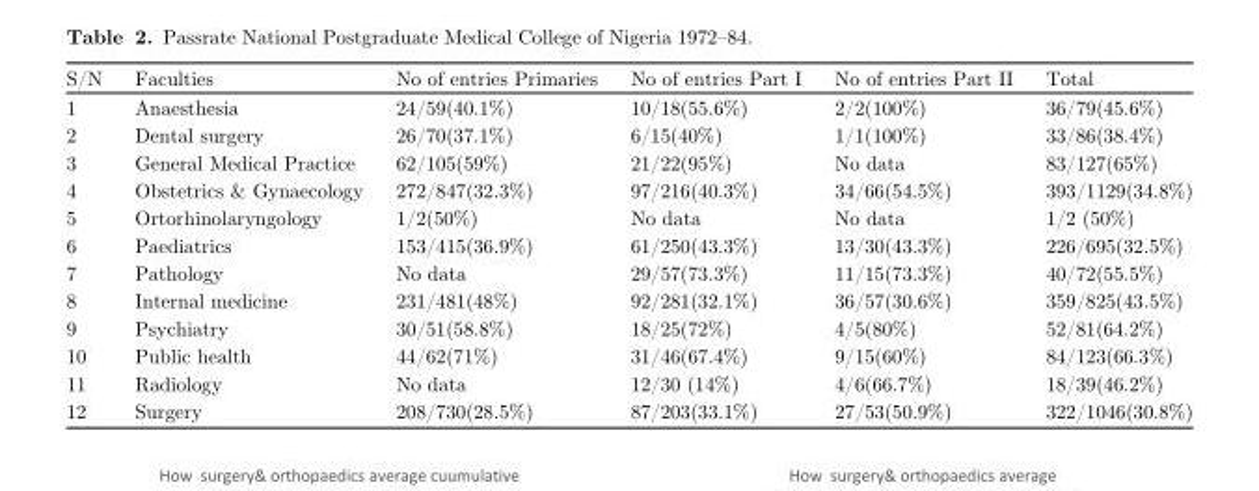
<table><thead><tr><td>S/N</td><td>Faculties</td><td>No of entries Primaries</td><td>No of entries Part I</td><td>No of entries Part II</td><td>Total</td></tr></thead><tbody><tr><td>1</td><td>Anaesthesia</td><td>24/59(40.1%)</td><td>10/18(55.6%)</td><td>2/2(100%)</td><td>36/79(45.6%)</td></tr><tr><td>2</td><td>Dental surgery</td><td>26/70(37.1%)</td><td>6/15(40%)</td><td>1/1(100%)</td><td>33/86(38.4%)</td></tr><tr><td>3</td><td>General Medical Practice</td><td>62/105(59%)</td><td>21/22(95%)</td><td>No data</td><td>83/127(65%)</td></tr><tr><td>4</td><td>Obstetrics &amp; Gynaecology</td><td>272/847(32.3%)</td><td>97/216(40.3%)</td><td>34/66(54.5%)</td><td>393/1129(34.8%)</td></tr><tr><td>5</td><td>Ortorhinolaryngology</td><td>1/2(50%)</td><td>No data</td><td>No data</td><td>1/2 (50%)</td></tr><tr><td>6</td><td>Paediatrics</td><td>153/415(36.9%)</td><td>61/250(43.3%)</td><td>13/30(43.3%)</td><td>226/695(32.5%)</td></tr><tr><td>7</td><td>Pathology</td><td>No data</td><td>29/57(73.3%)</td><td>11/15(73.3%)</td><td>40/72(55.5%)</td></tr><tr><td>8</td><td>Internal medicine</td><td>231/481(48%)</td><td>92/281(32.1%)</td><td>36/57(30.6%)</td><td>359/825(43.5%)</td></tr><tr><td>9</td><td>Psychiatry</td><td>30/51(58.8%)</td><td>18/25(72%)</td><td>4/5(80%)</td><td>52/81(64.2%)</td></tr><tr><td>10</td><td>Public health</td><td>44/62(71%)</td><td>31/46(67.4%)</td><td>9/15(60%)</td><td>84/123(66.3%)</td></tr><tr><td>11</td><td>Radiology</td><td>No data</td><td>12/30 (14%)</td><td>4/6(66.7%)</td><td>18/39(46.2%)</td></tr><tr><td>12</td><td>Surgery</td><td>208/730(28.5%)</td><td>87/203(33.1%)</td><td>27/53(50.9%)</td><td>322/1046(30.8%)</td></tr></tbody></table>